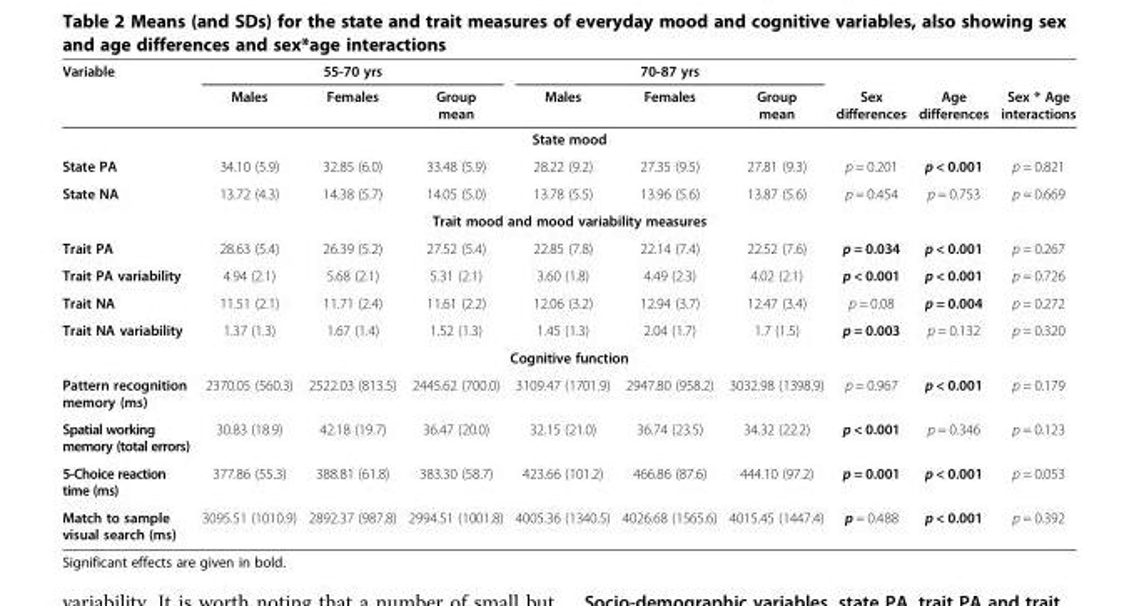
<table><thead><tr><td rowspan="2">Variable</td><td colspan="3">55-70 yrs</td><td colspan="3">70-87 yrs</td><td rowspan="2">Sex differences</td><td rowspan="2">Age differences</td><td rowspan="2">Sex * Age interactions</td></tr><tr><td>Males</td><td>Females</td><td>Group mean</td><td>Males</td><td>Females</td><td>Group mean</td></tr></thead><tbody><tr><td colspan="10">State mood</td></tr><tr><td>State PA</td><td>34.10 (5.9)</td><td>32.85 (6.0)</td><td>33.48 (5.9)</td><td>28.22 (9.2)</td><td>27.35 (9.5)</td><td>27.81 (9.3)</td><td>p = 0.201</td><td>p &lt; 0.001</td><td>p = 0.821</td></tr><tr><td>State NA</td><td>13.72 (4.3)</td><td>14.38 (5.7)</td><td>14.05 (5.0)</td><td>13.78 (5.5)</td><td>13.96 (5.6)</td><td>13.87 (5.6)</td><td>p = 0.454</td><td>p = 0.753</td><td>p = 0.669</td></tr><tr><td colspan="10">Trait mood and mood variability measures</td></tr><tr><td>Trait PA</td><td>28.63 (5.4)</td><td>26.39 (5.2)</td><td>27.52 (5.4)</td><td>22.85 (7.8)</td><td>22.14 (7.4)</td><td>22.52 (7.6)</td><td>p = 0.034</td><td>p &lt; 0.001</td><td>p = 0.267</td></tr><tr><td>Trait PA variability</td><td>4.94 (2.1)</td><td>5.68 (2.1)</td><td>5.31 (2.1)</td><td>3.60 (1.8)</td><td>4.49 (2.3)</td><td>4.02 (2.1)</td><td>p &lt; 0.001</td><td>p &lt; 0.001</td><td>p = 0.726</td></tr><tr><td>Trait NA</td><td>11.51 (2.1)</td><td>11.71 (2.4)</td><td>11.61 (2.2)</td><td>12.06 (3.2)</td><td>12.94 (3.7)</td><td>12.47 (3.4)</td><td>p = 0.08</td><td>p = 0.004</td><td>p = 0.272</td></tr><tr><td>Trait NA variability</td><td>1.37 (1.3)</td><td>1.67 (1.4)</td><td>1.52 (1.3)</td><td>1.45 (1.3)</td><td>2.04 (1.7)</td><td>1.7 (1.5)</td><td>p = 0.003</td><td>p = 0.132</td><td>p = 0.320</td></tr><tr><td colspan="10">Cognitive function</td></tr><tr><td>Pattern recognition memory (ms)</td><td>2370.05 (560.3)</td><td>2522.03 (813.5)</td><td>2445.62 (700.0)</td><td>3109.47 (1701.9)</td><td>2947.80 (958.2)</td><td>3032.98 (1398.9)</td><td>p = 0.967</td><td>p &lt; 0.001</td><td>p = 0.179</td></tr><tr><td>Spatial working memory (total errors)</td><td>30.83 (18.9)</td><td>42.18 (19.7)</td><td>36.47 (20.0)</td><td>32.15 (21.0)</td><td>36.74 (23.5)</td><td>34.32 (22.2)</td><td>p &lt; 0.001</td><td>p = 0.346</td><td>p = 0.123</td></tr><tr><td>5-Choice reaction time (ms)</td><td>377.86 (55.3)</td><td>388.81 (61.8)</td><td>383.30 (58.7)</td><td>423.66 (101.2)</td><td>466.86 (87.6)</td><td>444.10 (97.2)</td><td>p = 0.001</td><td>p &lt; 0.001</td><td>p = 0.053</td></tr><tr><td>Match to sample visual search (ms)</td><td>3095.51 (1010.9)</td><td>2892.37 (987.8)</td><td>2994.51 (1001.8)</td><td>4005.36 (1340.5)</td><td>4026.68 (1565.6)</td><td>4015.45 (1447.4)</td><td>p = 0.488</td><td>p &lt; 0.001</td><td>p = 0.392</td></tr></tbody></table>